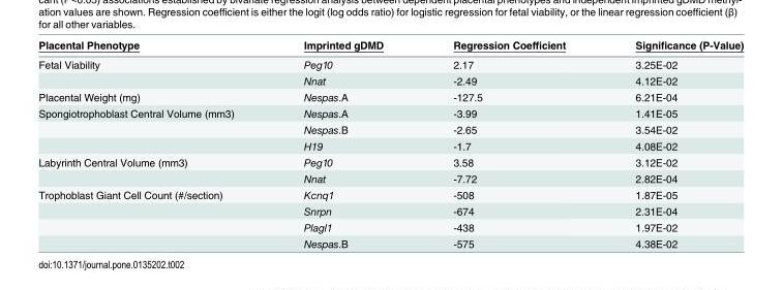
<table><thead><tr><td>Placental Phenotype</td><td>Imprinted gDMD</td><td>Regression Coefficient</td><td>Significance (P-Value)</td></tr></thead><tbody><tr><td rowspan="2">Fetal Viability</td><td>Peg10</td><td>2.17</td><td>3.25E-02</td></tr><tr><td>Nnat</td><td>-2.49</td><td>4.12E-02</td></tr><tr><td>Placental Weight (mg)</td><td>Nespas.A</td><td>-127.5</td><td>6.21E-04</td></tr><tr><td rowspan="3">Spongiotrophoblast Central Volume (mm3)</td><td>Nespas.A</td><td>-3.99</td><td>1.41E-05</td></tr><tr><td>Nespas.B</td><td>-2.65</td><td>3.54E-02</td></tr><tr><td>H19</td><td>-1.7</td><td>4.08E-02</td></tr><tr><td rowspan="2">Labyrinth Central Volume (mm3)</td><td>Peg10</td><td>3.58</td><td>3.12E-02</td></tr><tr><td>Nnat</td><td>-7.72</td><td>2.82E-04</td></tr><tr><td rowspan="4">Trophoblast Giant Cell Count (#/section)</td><td>Kcnq1</td><td>-508</td><td>1.87E-05</td></tr><tr><td>Snrpn</td><td>-674</td><td>2.31E-04</td></tr><tr><td>Plagl1</td><td>-438</td><td>1.97E-02</td></tr><tr><td>Nespas.B</td><td>-575</td><td>4.38E-02</td></tr></tbody></table>